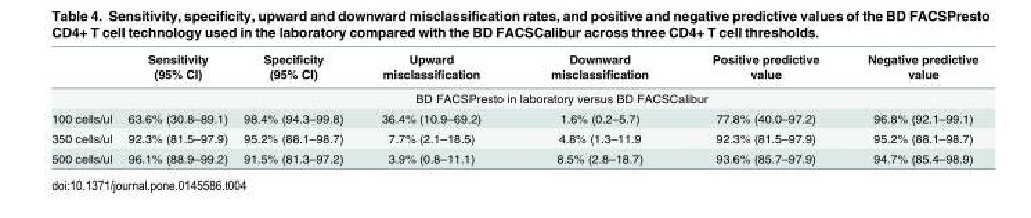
<table><thead><tr><td></td><td>Sensitivity (95% CI)</td><td>Specificity (95% CI)</td><td>Upward misclassification</td><td>Downward misclassification</td><td>Positive predictive value</td><td>Negative predictive value</td></tr></thead><tbody><tr><td></td><td colspan="6">BD FACSPresto in laboratory versus BD FACSCalibur</td></tr><tr><td>100 cells/ul</td><td>63.6% (30.8–89.1)</td><td>98.4% (94.3–99.8)</td><td>36.4% (10.9–69.2)</td><td>1.6% (0.2–5.7)</td><td>77.8% (40.0–97.2)</td><td>96.8% (92.1–99.1)</td></tr><tr><td>350 cells/ul</td><td>92.3% (81.5–97.9)</td><td>95.2% (88.1–98.7)</td><td>7.7% (2.1–18.5)</td><td>4.8% (1.3–11.9</td><td>92.3% (81.5–97.9)</td><td>95.2% (88.1–98.7)</td></tr><tr><td>500 cells/ul</td><td>96.1% (88.9–99.2)</td><td>91.5% (81.3–97.2)</td><td>3.9% (0.8–11.1)</td><td>8.5% (2.8–18.7)</td><td>93.6% (85.7–97.9)</td><td>94.7% (85.4–98.9)</td></tr></tbody></table>